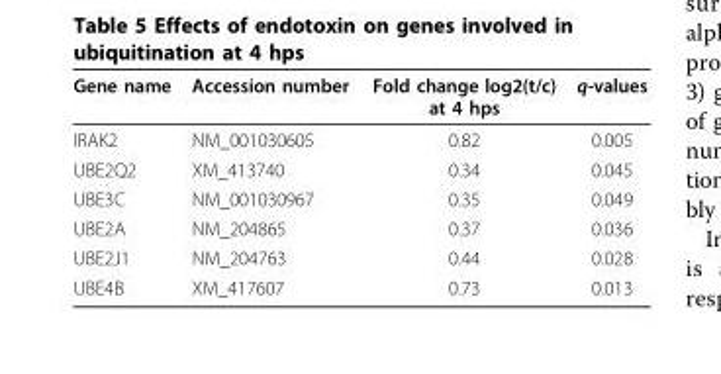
<table><thead><tr><td>Gene name</td><td>Accession number</td><td>Fold change log2(t/c) at 4 hps</td><td>q-values</td></tr></thead><tbody><tr><td>IRAK2</td><td>NM_001030605</td><td>0.82</td><td>0.005</td></tr><tr><td>UBE2Q2</td><td>XM_413740</td><td>0.34</td><td>0.045</td></tr><tr><td>UBE3C</td><td>NM_001030967</td><td>0.35</td><td>0.049</td></tr><tr><td>UBE2A</td><td>NM_204865</td><td>0.37</td><td>0.036</td></tr><tr><td>UBE2J1</td><td>NM_204763</td><td>0.44</td><td>0.028</td></tr><tr><td>UBE4B</td><td>XM_417607</td><td>0.73</td><td>0.013</td></tr></tbody></table>